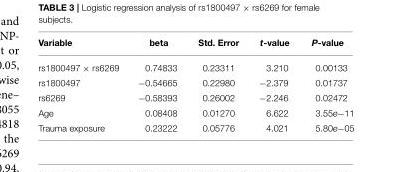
<table><thead><tr><td>Variable</td><td>beta</td><td>Std. Error</td><td>t-value</td><td>P-value</td></tr></thead><tbody><tr><td>rs1800497 × rs6269</td><td>0.74833</td><td>0.23311</td><td>3.210</td><td>0.00133</td></tr><tr><td>rs1800497</td><td>−0.54665</td><td>0.22980</td><td>−2.379</td><td>0.01737</td></tr><tr><td>rs6269</td><td>−0.58393</td><td>0.26002</td><td>−2.246</td><td>0.02472</td></tr><tr><td>Age</td><td>0.08408</td><td>0.01270</td><td>6.622</td><td>3.55e−11</td></tr><tr><td>Trauma exposure</td><td>0.23222</td><td>0.05776</td><td>4.021</td><td>5.80e−05</td></tr></tbody></table>